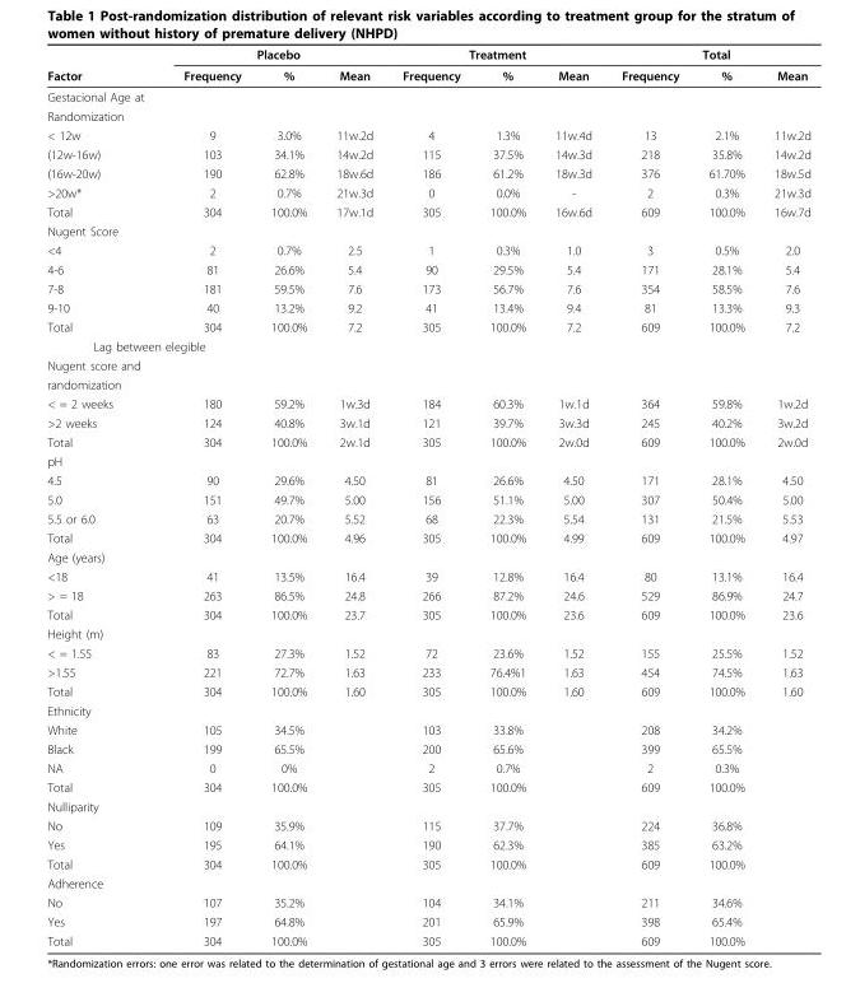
<table><thead><tr><td rowspan="2">Factor</td><td colspan="3">Placebo</td><td colspan="3">Treatment</td><td colspan="3">Total</td></tr><tr><td>Frequency</td><td>%</td><td>Mean</td><td>Frequency</td><td>%</td><td>Mean</td><td>Frequency</td><td>%</td><td>Mean</td></tr></thead><tbody><tr><td colspan="10">Gestacional Age at</td></tr><tr><td colspan="10">Randomization</td></tr><tr><td>&lt; 12w</td><td>9</td><td>3.0%</td><td>11w.2d</td><td>4</td><td>1.3%</td><td>11w.4d</td><td>13</td><td>2.1%</td><td>11w.2d</td></tr><tr><td>(12w-16w)</td><td>103</td><td>34.1%</td><td>14w.2d</td><td>115</td><td>37.5%</td><td>14w.3d</td><td>218</td><td>35.8%</td><td>14w.2d</td></tr><tr><td>(16w-20w)</td><td>190</td><td>62.8%</td><td>18w.6d</td><td>186</td><td>61.2%</td><td>18w.3d</td><td>376</td><td>61.70%</td><td>18w.5d</td></tr><tr><td>&gt;20w*</td><td>2</td><td>0.7%</td><td>21w.3d</td><td>0</td><td>0.0%</td><td>-</td><td>2</td><td>0.3%</td><td>21w.3d</td></tr><tr><td>Total</td><td>304</td><td>100.0%</td><td>17w.1d</td><td>305</td><td>100.0%</td><td>16w.6d</td><td>609</td><td>100.0%</td><td>16w.7d</td></tr><tr><td colspan="10">Nugent Score</td></tr><tr><td>&lt;4</td><td>2</td><td>0.7%</td><td>2.5</td><td>1</td><td>0.3%</td><td>1.0</td><td>3</td><td>0.5%</td><td>2.0</td></tr><tr><td>4-6</td><td>81</td><td>26.6%</td><td>5.4</td><td>90</td><td>29.5%</td><td>5.4</td><td>171</td><td>28.1%</td><td>5.4</td></tr><tr><td>7-8</td><td>181</td><td>59.5%</td><td>7.6</td><td>173</td><td>56.7%</td><td>7.6</td><td>354</td><td>58.5%</td><td>7.6</td></tr><tr><td>9-10</td><td>40</td><td>13.2%</td><td>9.2</td><td>41</td><td>13.4%</td><td>9.4</td><td>81</td><td>13.3%</td><td>9.3</td></tr><tr><td>Total</td><td>304</td><td>100.0%</td><td>7.2</td><td>305</td><td>100.0%</td><td>7.2</td><td>609</td><td>100.0%</td><td>7.2</td></tr><tr><td colspan="10">Lag between elegible</td></tr><tr><td colspan="10">Nugent score and</td></tr><tr><td colspan="10">randomization</td></tr><tr><td>&lt; = 2 weeks</td><td>180</td><td>59.2%</td><td>1w.3d</td><td>184</td><td>60.3%</td><td>1w.1d</td><td>364</td><td>59.8%</td><td>1w.2d</td></tr><tr><td>&gt;2 weeks</td><td>124</td><td>40.8%</td><td>3w.1d</td><td>121</td><td>39.7%</td><td>3w.3d</td><td>245</td><td>40.2%</td><td>3w.2d</td></tr><tr><td>Total</td><td>304</td><td>100.0%</td><td>2w.1d</td><td>305</td><td>100.0%</td><td>2w.0d</td><td>609</td><td>100.0%</td><td>2w.0d</td></tr><tr><td colspan="10">pH</td></tr><tr><td>4.5</td><td>90</td><td>29.6%</td><td>4.50</td><td>81</td><td>26.6%</td><td>4.50</td><td>171</td><td>28.1%</td><td>4.50</td></tr><tr><td>5.0</td><td>151</td><td>49.7%</td><td>5.00</td><td>156</td><td>51.1%</td><td>5.00</td><td>307</td><td>50.4%</td><td>5.00</td></tr><tr><td>5.5 or 6.0</td><td>63</td><td>20.7%</td><td>5.52</td><td>68</td><td>22.3%</td><td>5.54</td><td>131</td><td>21.5%</td><td>5.53</td></tr><tr><td>Total</td><td>304</td><td>100.0%</td><td>4.96</td><td>305</td><td>100.0%</td><td>4.99</td><td>609</td><td>100.0%</td><td>4.97</td></tr><tr><td colspan="10">Age (years)</td></tr><tr><td>&lt;18</td><td>41</td><td>13.5%</td><td>16.4</td><td>39</td><td>12.8%</td><td>16.4</td><td>80</td><td>13.1%</td><td>16.4</td></tr><tr><td>&gt; = 18</td><td>263</td><td>86.5%</td><td>24.8</td><td>266</td><td>87.2%</td><td>24.6</td><td>529</td><td>86.9%</td><td>24.7</td></tr><tr><td>Total</td><td>304</td><td>100.0%</td><td>23.7</td><td>305</td><td>100.0%</td><td>23.6</td><td>609</td><td>100.0%</td><td>23.6</td></tr><tr><td colspan="10">Height (m)</td></tr><tr><td>&lt; = 1.55</td><td>83</td><td>27.3%</td><td>1.52</td><td>72</td><td>23.6%</td><td>1.52</td><td>155</td><td>25.5%</td><td>1.52</td></tr><tr><td>&gt;1.55</td><td>221</td><td>72.7%</td><td>1.63</td><td>233</td><td>76.4%1</td><td>1.63</td><td>454</td><td>74.5%</td><td>1.63</td></tr><tr><td>Total</td><td>304</td><td>100.0%</td><td>1.60</td><td>305</td><td>100.0%</td><td>1.60</td><td>609</td><td>100.0%</td><td>1.60</td></tr><tr><td colspan="10">Ethnicity</td></tr><tr><td>White</td><td>105</td><td>34.5%</td><td></td><td>103</td><td>33.8%</td><td></td><td>208</td><td>34.2%</td><td></td></tr><tr><td>Black</td><td>199</td><td>65.5%</td><td></td><td>200</td><td>65.6%</td><td></td><td>399</td><td>65.5%</td><td></td></tr><tr><td>NA</td><td>0</td><td>0%</td><td></td><td>2</td><td>0.7%</td><td></td><td>2</td><td>0.3%</td><td></td></tr><tr><td>Total</td><td>304</td><td>100.0%</td><td></td><td>305</td><td>100.0%</td><td></td><td>609</td><td>100.0%</td><td></td></tr><tr><td colspan="10">Nulliparity</td></tr><tr><td>No</td><td>109</td><td>35.9%</td><td></td><td>115</td><td>37.7%</td><td></td><td>224</td><td>36.8%</td><td></td></tr><tr><td>Yes</td><td>195</td><td>64.1%</td><td></td><td>190</td><td>62.3%</td><td></td><td>385</td><td>63.2%</td><td></td></tr><tr><td>Total</td><td>304</td><td>100.0%</td><td></td><td>305</td><td>100.0%</td><td></td><td>609</td><td>100.0%</td><td></td></tr><tr><td colspan="10">Adherence</td></tr><tr><td>No</td><td>107</td><td>35.2%</td><td></td><td>104</td><td>34.1%</td><td></td><td>211</td><td>34.6%</td><td></td></tr><tr><td>Yes</td><td>197</td><td>64.8%</td><td></td><td>201</td><td>65.9%</td><td></td><td>398</td><td>65.4%</td><td></td></tr><tr><td>Total</td><td>304</td><td>100.0%</td><td></td><td>305</td><td>100.0%</td><td></td><td>609</td><td>100.0%</td><td></td></tr></tbody></table>